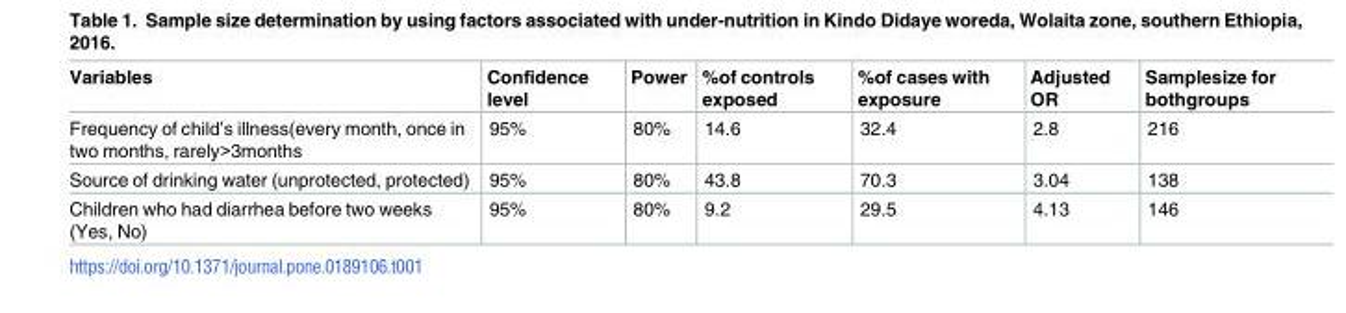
<table><thead><tr><td>Variables</td><td>Confidence level</td><td>Power</td><td>%of controls exposed</td><td>%of cases with exposure</td><td>Adjusted OR</td><td>Samplesize for bothgroups</td></tr></thead><tbody><tr><td>Frequency of child’s illness(every month, once in two months, rarely&gt;3months</td><td>95%</td><td>80%</td><td>14.6</td><td>32.4</td><td>2.8</td><td>216</td></tr><tr><td>Source of drinking water (unprotected, protected)</td><td>95%</td><td>80%</td><td>43.8</td><td>70.3</td><td>3.04</td><td>138</td></tr><tr><td>Children who had diarrhea before two weeks (Yes, No)</td><td>95%</td><td>80%</td><td>9.2</td><td>29.5</td><td>4.13</td><td>146</td></tr></tbody></table>